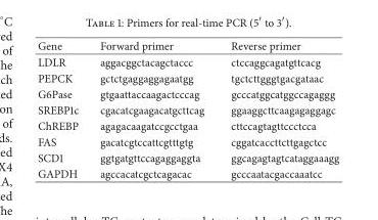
<table><thead><tr><td>Gene</td><td>Forward primer</td><td>Reverse primer</td></tr></thead><tbody><tr><td>LDLR</td><td>aggacggctacagctaccc</td><td>ctccaggcagatgttcacg</td></tr><tr><td>PEPCK</td><td>gctctgaggaggagaatgg</td><td>tgctcttgggtgacgataac</td></tr><tr><td>G6Pase</td><td>gtgaattaccaagactcccag</td><td>gcccatggcatggccagaggg</td></tr><tr><td>SREBP1c</td><td>cgacatcgaagacatgcttcag</td><td>ggaaggcttcaagagaggagc</td></tr><tr><td>ChREBP</td><td>agagacaagatccgcctgaa</td><td>cttccagtagttccctcca</td></tr><tr><td>FAS</td><td>gacatcgtccattcgtttgtg</td><td>cggatcaccttcttgagctcc</td></tr><tr><td>SCD1</td><td>ggtgatgttccagaggaggta</td><td>ggcagagtagtcataggaaagg</td></tr><tr><td>GAPDH</td><td>agccacatcgctcagacac</td><td>gcccaatacgaccaaatcc</td></tr></tbody></table>